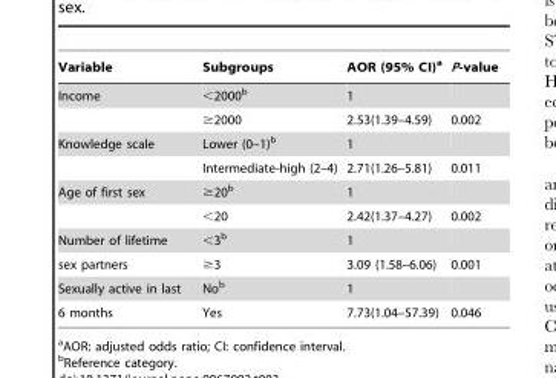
<table><thead><tr><td>Variable</td><td>Subgroups</td><td>AOR (95% CI)<sup>a</sup></td><td>P-value</td></tr></thead><tbody><tr><td rowspan="2">Income</td><td>&lt;2000<sup>b</sup></td><td>1</td><td></td></tr><tr><td>≥2000</td><td>2.53(1.39–4.59)</td><td>0.002</td></tr><tr><td rowspan="2">Knowledge scale</td><td>Lower (0–1)<sup>b</sup></td><td>1</td><td></td></tr><tr><td>Intermediate-high (2–4)</td><td>2.71(1.26–5.81)</td><td>0.011</td></tr><tr><td rowspan="2">Age of first sex</td><td>≥20<sup>b</sup></td><td>1</td><td></td></tr><tr><td>&lt;20</td><td>2.42(1.37–4.27)</td><td>0.002</td></tr><tr><td>Number of lifetime</td><td>&lt;3<sup>b</sup></td><td>1</td><td></td></tr><tr><td>sex partners</td><td>≥3</td><td>3.09 (1.58–6.06)</td><td>0.001</td></tr><tr><td>Sexually active in last</td><td>No<sup>b</sup></td><td>1</td><td></td></tr><tr><td>6 months</td><td>Yes</td><td>7.73(1.04–57.39)</td><td>0.046</td></tr></tbody></table>